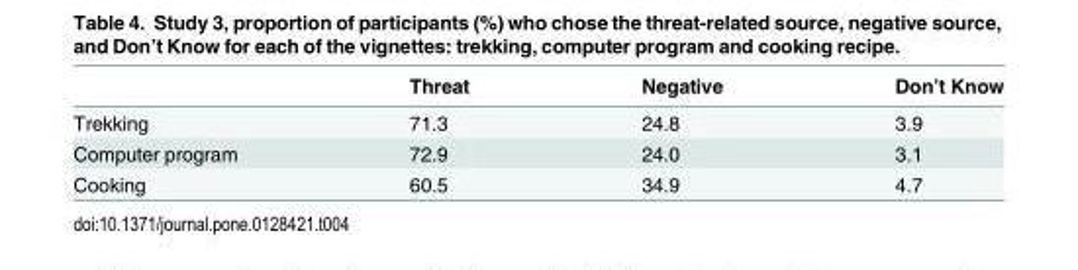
<table><thead><tr><td></td><td>Threat</td><td>Negative</td><td>Don’t Know</td></tr></thead><tbody><tr><td>Trekking</td><td>71.3</td><td>24.8</td><td>3.9</td></tr><tr><td>Computer program</td><td>72.9</td><td>24.0</td><td>3.1</td></tr><tr><td>Cooking</td><td>60.5</td><td>34.9</td><td>4.7</td></tr></tbody></table>